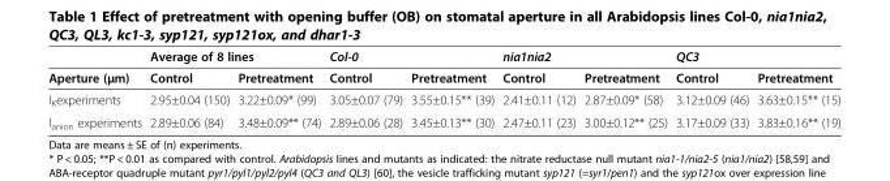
<table><thead><tr><td rowspan="2">Aperture (μm)</td><td colspan="2">Average of 8 lines</td><td colspan="2">Col-0</td><td colspan="2">nia1nia2</td><td colspan="2">QC3</td></tr><tr><td>Control</td><td>Pretreatment</td><td>Control</td><td>Pretreatment</td><td>Control</td><td>Pretreatment</td><td>Control</td><td>Pretreatment</td></tr></thead><tbody><tr><td>I<sub>K</sub>experiments</td><td>2.95±0.04 (150)</td><td>3.22±0.09* (99)</td><td>3.05±0.07 (79)</td><td>3.55±0.15** (39)</td><td>2.41±0.11 (12)</td><td>2.87±0.09* (58)</td><td>3.12±0.09 (46)</td><td>3.63±0.15** (15)</td></tr><tr><td>I<sub>anion</sub> experiments</td><td>2.89±0.06 (84)</td><td>3.48±0.09** (74)</td><td>2.89±0.06 (28)</td><td>3.45±0.13** (30)</td><td>2.47±0.11 (23)</td><td>3.00±0.12** (25)</td><td>3.17±0.09 (33)</td><td>3.83±0.16** (19)</td></tr></tbody></table>